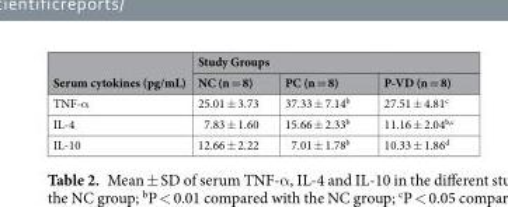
<table><thead><tr><td rowspan="2">Serum cytokines (pg/mL)</td><td colspan="3">Study Groups</td></tr><tr><td>NC (n = 8)</td><td>PC (n = 8)</td><td>P-VD (n = 8)</td></tr></thead><tbody><tr><td>TNF-α</td><td>25.01 ± 3.73</td><td>37.33 ± 7.14<sup>b</sup></td><td>27.51 ± 4.81<sup>c</sup></td></tr><tr><td>IL-4</td><td>7.83 ± 1.60</td><td>15.66 ± 2.33<sup>b</sup></td><td>11.16 ± 2.04<sup>b,c</sup></td></tr><tr><td>IL-10</td><td>12.66 ± 2.22</td><td>7.01 ± 1.78<sup>b</sup></td><td>10.33 ± 1.86<sup>d</sup></td></tr></tbody></table>